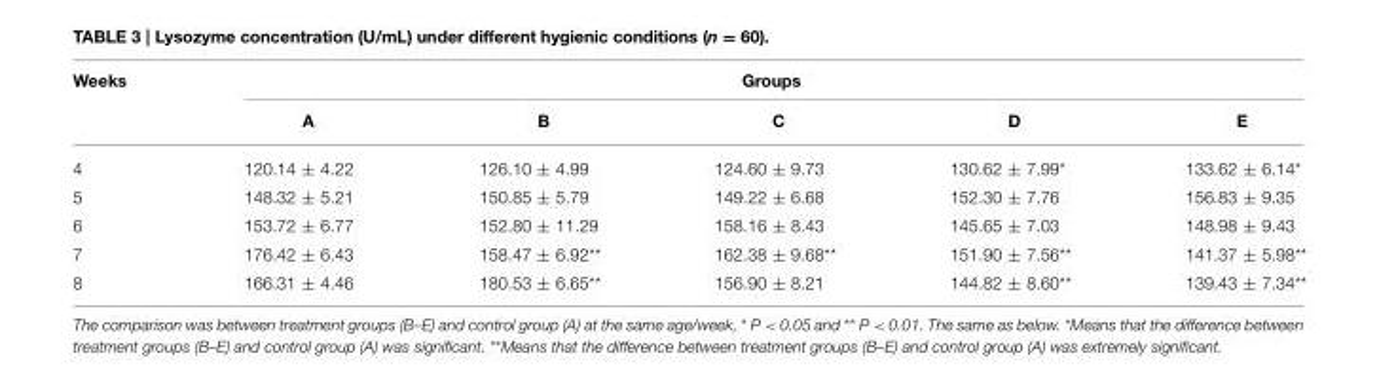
<table><thead><tr><td rowspan="2">Weeks</td><td colspan="5">Groups</td></tr><tr><td>A</td><td>B</td><td>C</td><td>D</td><td>E</td></tr></thead><tbody><tr><td>4</td><td>120.14 ± 4.22</td><td>126.10 ± 4.99</td><td>124.60 ± 9.73</td><td>130.62 ± 7.99*</td><td>133.62 ± 6.14*</td></tr><tr><td>5</td><td>148.32 ± 5.21</td><td>150.85 ± 5.79</td><td>149.22 ± 6.68</td><td>152.30 ± 7.76</td><td>156.83 ± 9.35</td></tr><tr><td>6</td><td>153.72 ± 6.77</td><td>152.80 ± 11.29</td><td>158.16 ± 8.43</td><td>145.65 ± 7.03</td><td>148.98 ± 9.43</td></tr><tr><td>7</td><td>176.42 ± 6.43</td><td>158.47 ± 6.92**</td><td>162.38 ± 9.68**</td><td>151.90 ± 7.56**</td><td>141.37 ± 5.98**</td></tr><tr><td>8</td><td>166.31 ± 4.46</td><td>180.53 ± 6.65**</td><td>156.90 ± 8.21</td><td>144.82 ± 8.60**</td><td>139.43 ± 7.34**</td></tr></tbody></table>